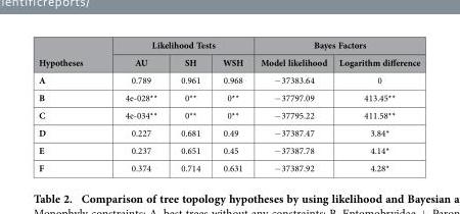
<table><thead><tr><td rowspan="2">Hypotheses</td><td colspan="3">Likelihood Tests</td><td colspan="2">Bayes Factors</td></tr><tr><td>AU</td><td>SH</td><td>WSH</td><td>Model likelihood</td><td>Logarithm difference</td></tr></thead><tbody><tr><td>A</td><td>0.789</td><td>0.961</td><td>0.968</td><td>− 37383.64</td><td>0</td></tr><tr><td>B</td><td>4e-028**</td><td>0**</td><td>0**</td><td>− 37797.09</td><td>413.45**</td></tr><tr><td>C</td><td>4e-034**</td><td>0**</td><td>0**</td><td>− 37795.22</td><td>411.58**</td></tr><tr><td>D</td><td>0.227</td><td>0.681</td><td>0.49</td><td>− 37387.47</td><td>3.84*</td></tr><tr><td>E</td><td>0.237</td><td>0.651</td><td>0.45</td><td>− 37387.78</td><td>4.14*</td></tr><tr><td>F</td><td>0.374</td><td>0.714</td><td>0.631</td><td>− 37387.92</td><td>4.28*</td></tr></tbody></table>